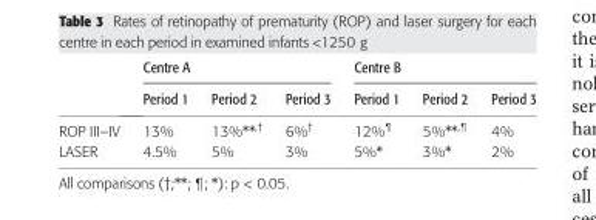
<table><thead><tr><td rowspan="2"></td><td colspan="3">Centre A</td><td colspan="3">Centre B</td></tr><tr><td>Period 1</td><td>Period 2</td><td>Period 3</td><td>Period 1</td><td>Period 2</td><td>Period 3</td></tr></thead><tbody><tr><td>ROP III–IV</td><td>13%</td><td>13%**,†</td><td>6%†</td><td>12%¶</td><td>5%**,¶</td><td>4%</td></tr><tr><td>LASER</td><td>4.5%</td><td>5%</td><td>3%</td><td>5%*</td><td>3%*</td><td>2%</td></tr></tbody></table>